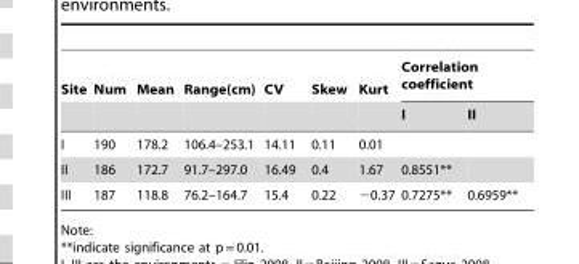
<table><thead><tr><td rowspan="2">Site</td><td rowspan="2">Num</td><td rowspan="2">Mean</td><td rowspan="2">Range(cm)</td><td rowspan="2">CV</td><td rowspan="2">Skew</td><td rowspan="2">Kurt</td><td colspan="2">Correlation coefficient</td></tr><tr><td>I</td><td>II</td></tr></thead><tbody><tr><td>I</td><td>190</td><td>178.2</td><td>106.4–253.1</td><td>14.11</td><td>0.11</td><td>0.01</td><td></td><td></td></tr><tr><td>II</td><td>186</td><td>172.7</td><td>91.7–297.0</td><td>16.49</td><td>0.4</td><td>1.67</td><td>0.8551**</td><td></td></tr><tr><td>III</td><td>187</td><td>118.8</td><td>76.2–164.7</td><td>15.4</td><td>0.22</td><td>−0.37</td><td>0.7275**</td><td>0.6959**</td></tr></tbody></table>